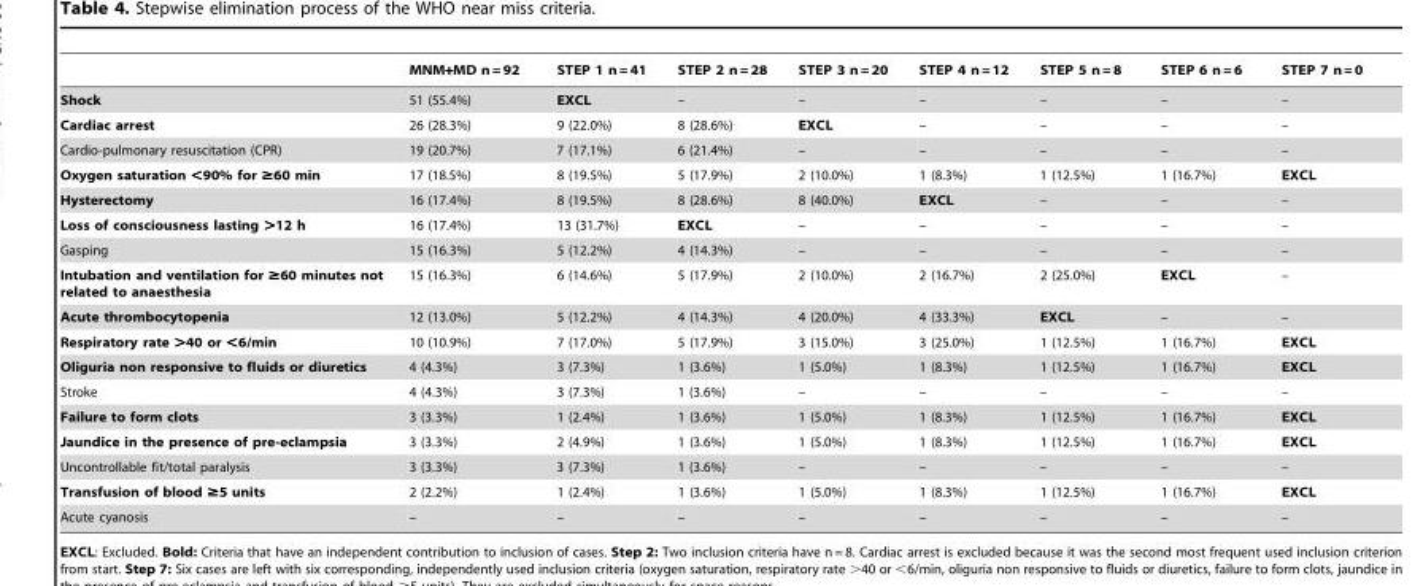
<table><thead><tr><td></td><td>MNM+MD n = 92</td><td>STEP 1 n = 41</td><td>STEP 2 n = 28</td><td>STEP 3 n = 20</td><td>STEP 4 n = 12</td><td>STEP 5 n = 8</td><td>STEP 6 n = 6</td><td>STEP 7 n = 0</td></tr></thead><tbody><tr><td>Shock</td><td>51 (55.4%)</td><td>EXCL</td><td>–</td><td>–</td><td>–</td><td>–</td><td>–</td><td>–</td></tr><tr><td>Cardiac arrest</td><td>26 (28.3%)</td><td>9 (22.0%)</td><td>8 (28.6%)</td><td>EXCL</td><td>–</td><td>–</td><td>–</td><td>–</td></tr><tr><td>Cardio-pulmonary resuscitation (CPR)</td><td>19 (20.7%)</td><td>7 (17.1%)</td><td>6 (21.4%)</td><td>–</td><td>–</td><td>–</td><td>–</td><td>–</td></tr><tr><td>Oxygen saturation &lt;90% for ≥60 min</td><td>17 (18.5%)</td><td>8 (19.5%)</td><td>5 (17.9%)</td><td>2 (10.0%)</td><td>1 (8.3%)</td><td>1 (12.5%)</td><td>1 (16.7%)</td><td>EXCL</td></tr><tr><td>Hysterectomy</td><td>16 (17.4%)</td><td>8 (19.5%)</td><td>8 (28.6%)</td><td>8 (40.0%)</td><td>EXCL</td><td>–</td><td>–</td><td>–</td></tr><tr><td>Loss of consciousness lasting &gt;12 h</td><td>16 (17.4%)</td><td>13 (31.7%)</td><td>EXCL</td><td>–</td><td>–</td><td>–</td><td>–</td><td>–</td></tr><tr><td>Gasping</td><td>15 (16.3%)</td><td>5 (12.2%)</td><td>4 (14.3%)</td><td>–</td><td>–</td><td>–</td><td>–</td><td>–</td></tr><tr><td>Intubation and ventilation for ≥60 minutes not related to anaesthesia</td><td>15 (16.3%)</td><td>6 (14.6%)</td><td>5 (17.9%)</td><td>2 (10.0%)</td><td>2 (16.7%)</td><td>2 (25.0%)</td><td>EXCL</td><td>–</td></tr><tr><td>Acute thrombocytopenia</td><td>12 (13.0%)</td><td>5 (12.2%)</td><td>4 (14.3%)</td><td>4 (20.0%)</td><td>4 (33.3%)</td><td>EXCL</td><td>–</td><td>–</td></tr><tr><td>Respiratory rate &gt;40 or &lt;6/min</td><td>10 (10.9%)</td><td>7 (17.0%)</td><td>5 (17.9%)</td><td>3 (15.0%)</td><td>3 (25.0%)</td><td>1 (12.5%)</td><td>1 (16.7%)</td><td>EXCL</td></tr><tr><td>Oliguria non responsive to fluids or diuretics</td><td>4 (4.3%)</td><td>3 (7.3%)</td><td>1 (3.6%)</td><td>1 (5.0%)</td><td>1 (8.3%)</td><td>1 (12.5%)</td><td>1 (16.7%)</td><td>EXCL</td></tr><tr><td>Stroke</td><td>4 (4.3%)</td><td>3 (7.3%)</td><td>1 (3.6%)</td><td>–</td><td>–</td><td>–</td><td>–</td><td>–</td></tr><tr><td>Failure to form clots</td><td>3 (3.3%)</td><td>1 (2.4%)</td><td>1 (3.6%)</td><td>1 (5.0%)</td><td>1 (8.3%)</td><td>1 (12.5%)</td><td>1 (16.7%)</td><td>EXCL</td></tr><tr><td>Jaundice in the presence of pre-eclampsia</td><td>3 (3.3%)</td><td>2 (4.9%)</td><td>1 (3.6%)</td><td>1 (5.0%)</td><td>1 (8.3%)</td><td>1 (12.5%)</td><td>1 (16.7%)</td><td>EXCL</td></tr><tr><td>Uncontrollable fit/total paralysis</td><td>3 (3.3%)</td><td>3 (7.3%)</td><td>1 (3.6%)</td><td>–</td><td>–</td><td>–</td><td>–</td><td>–</td></tr><tr><td>Transfusion of blood ≥5 units</td><td>2 (2.2%)</td><td>1 (2.4%)</td><td>1 (3.6%)</td><td>1 (5.0%)</td><td>1 (8.3%)</td><td>1 (12.5%)</td><td>1 (16.7%)</td><td>EXCL</td></tr><tr><td>Acute cyanosis</td><td>–</td><td>–</td><td>–</td><td>–</td><td>–</td><td>–</td><td>–</td><td>–</td></tr></tbody></table>